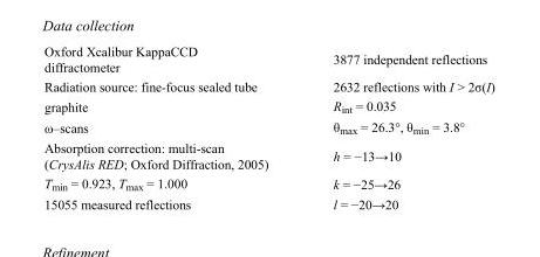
<table><tbody><tr><td>Oxford Xcalibur KappaCCD diffractometer</td><td>3877 independent reflections</td></tr><tr><td>Radiation source: fine-focus sealed tube</td><td>2632 reflections with I &gt; 2σ(I)</td></tr><tr><td>graphite</td><td>R<sub>int</sub> = 0.035</td></tr><tr><td>ω–scans</td><td>θ<sub>max</sub> = 26.3°, θ<sub>min</sub> = 3.8°</td></tr><tr><td>Absorption correction: multi-scan (CrysAlis RED; Oxford Diffraction, 2005)</td><td>h = −13→10</td></tr><tr><td>T<sub>min</sub> = 0.923, T<sub>max</sub> = 1.000</td><td>k = −25→26</td></tr><tr><td>15055 measured reflections</td><td>l = −20→20</td></tr></tbody></table>